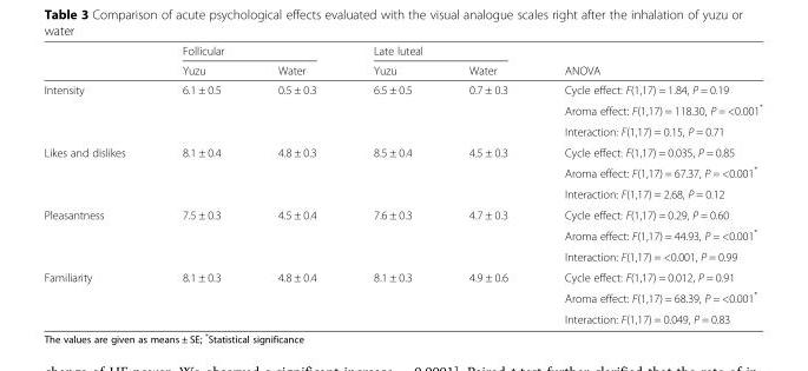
<table><thead><tr><td rowspan="2"></td><td colspan="2">Follicular</td><td colspan="2">Late luteal</td><td rowspan="2">ANOVA</td></tr><tr><td>Yuzu</td><td>Water</td><td>Yuzu</td><td>Water</td></tr></thead><tbody><tr><td rowspan="3">Intensity</td><td>6.1 ± 0.5</td><td>0.5 ± 0.3</td><td>6.5 ± 0.5</td><td>0.7 ± 0.3</td><td>Cycle effect: F(1,17) = 1.84, P = 0.19</td></tr><tr><td></td><td></td><td></td><td></td><td>Aroma effect: F(1,17) = 118.30, P = &lt;0.001*</td></tr><tr><td></td><td></td><td></td><td></td><td>Interaction: F(1,17) = 0.15, P = 0.71</td></tr><tr><td rowspan="3">Likes and dislikes</td><td>8.1 ± 0.4</td><td>4.8 ± 0.3</td><td>8.5 ± 0.4</td><td>4.5 ± 0.3</td><td>Cycle effect: F(1,17) = 0.035, P = 0.85</td></tr><tr><td></td><td></td><td></td><td></td><td>Aroma effect: F(1,17) = 67.37, P = &lt;0.001*</td></tr><tr><td></td><td></td><td></td><td></td><td>Interaction: F(1,17) = 2.68, P = 0.12</td></tr><tr><td rowspan="3">Pleasantness</td><td>7.5 ± 0.3</td><td>4.5 ± 0.4</td><td>7.6 ± 0.3</td><td>4.7 ± 0.3</td><td>Cycle effect: F(1,17) = 0.29, P = 0.60</td></tr><tr><td></td><td></td><td></td><td></td><td>Aroma effect: F(1,17) = 44.93, P = &lt;0.001*</td></tr><tr><td></td><td></td><td></td><td></td><td>Interaction: F(1,17) = &lt;0.001, P = 0.99</td></tr><tr><td rowspan="3">Familiarity</td><td>8.1 ± 0.3</td><td>4.8 ± 0.4</td><td>8.1 ± 0.3</td><td>4.9 ± 0.6</td><td>Cycle effect: F(1,17) = 0.012, P = 0.91</td></tr><tr><td></td><td></td><td></td><td></td><td>Aroma effect: F(1,17) = 68.39, P = &lt;0.001*</td></tr><tr><td></td><td></td><td></td><td></td><td>Interaction: F(1,17) = 0.049, P = 0.83</td></tr></tbody></table>